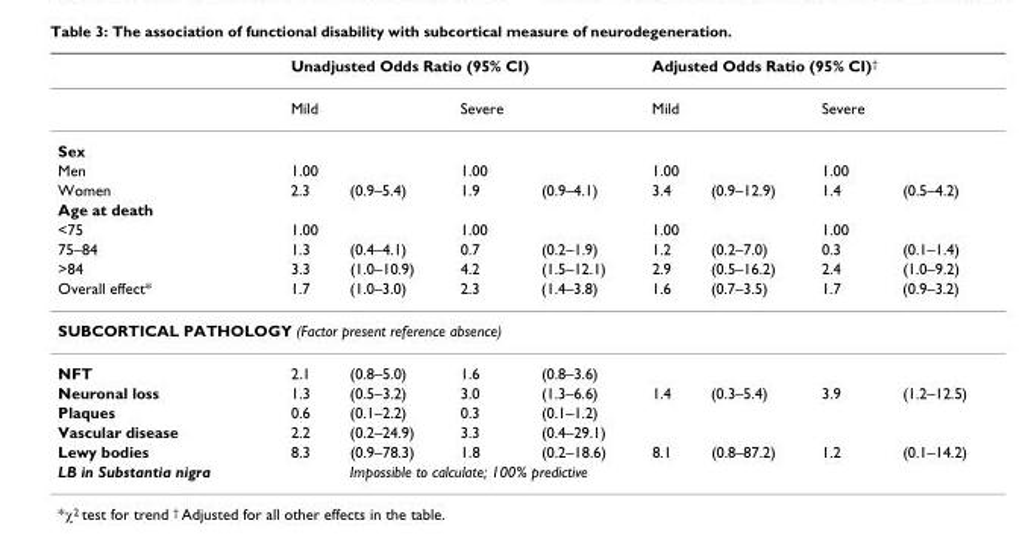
<table><thead><tr><td rowspan="2"></td><td colspan="4">Unadjusted Odds Ratio (95% CI)</td><td colspan="4">Adjusted Odds Ratio (95% CI)<sup>†</sup></td></tr><tr><td>Mild</td><td></td><td>Severe</td><td></td><td>Mild</td><td></td><td>Severe</td><td></td></tr></thead><tbody><tr><td colspan="9">Sex</td></tr><tr><td>Men</td><td>1.00</td><td></td><td>1.00</td><td></td><td>1.00</td><td></td><td>1.00</td><td></td></tr><tr><td>Women</td><td>2.3</td><td>(0.9–5.4)</td><td>1.9</td><td>(0.9–4.1)</td><td>3.4</td><td>(0.9–12.9)</td><td>1.4</td><td>(0.5–4.2)</td></tr><tr><td colspan="9">Age at death</td></tr><tr><td>&lt;75</td><td>1.00</td><td></td><td>1.00</td><td></td><td>1.00</td><td></td><td>1.00</td><td></td></tr><tr><td>75–84</td><td>1.3</td><td>(0.4–4.1)</td><td>0.7</td><td>(0.2–1.9)</td><td>1.2</td><td>(0.2–7.0)</td><td>0.3</td><td>(0.1–1.4)</td></tr><tr><td>&gt;84</td><td>3.3</td><td>(1.0–10.9)</td><td>4.2</td><td>(1.5–12.1)</td><td>2.9</td><td>(0.5–16.2)</td><td>2.4</td><td>(1.0–9.2)</td></tr><tr><td>Overall effect*</td><td>1.7</td><td>(1.0–3.0)</td><td>2.3</td><td>(1.4–3.8)</td><td>1.6</td><td>(0.7–3.5)</td><td>1.7</td><td>(0.9–3.2)</td></tr><tr><td colspan="9">SUBCORTICAL PATHOLOGY (Factor present reference absence)</td></tr><tr><td>NFT</td><td>2.1</td><td>(0.8–5.0)</td><td>1.6</td><td>(0.8–3.6)</td><td></td><td></td><td></td><td></td></tr><tr><td>Neuronal loss</td><td>1.3</td><td>(0.5–3.2)</td><td>3.0</td><td>(1.3–6.6)</td><td>1.4</td><td>(0.3–5.4)</td><td>3.9</td><td>(1.2–12.5)</td></tr><tr><td>Plaques</td><td>0.6</td><td>(0.1–2.2)</td><td>0.3</td><td>(0.1–1.2)</td><td></td><td></td><td></td><td></td></tr><tr><td>Vascular disease</td><td>2.2</td><td>(0.2–24.9)</td><td>3.3</td><td>(0.4–29.1)</td><td></td><td></td><td></td><td></td></tr><tr><td>Lewy bodies</td><td>8.3</td><td>(0.9–78.3)</td><td>1.8</td><td>(0.2–18.6)</td><td>8.1</td><td>(0.8–87.2)</td><td>1.2</td><td>(0.1–14.2)</td></tr><tr><td>LB in Substantia nigra</td><td></td><td colspan="7">Impossible to calculate; 100% predictive</td></tr></tbody></table>